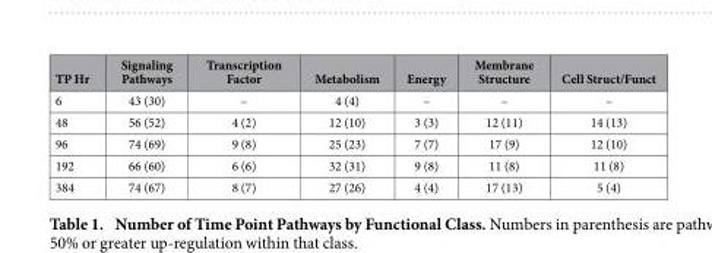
<table><thead><tr><td>TP Hr</td><td>Signaling Pathways</td><td>Transcription Factor</td><td>Metabolism</td><td>Energy</td><td>Membrane Structure</td><td>Cell Struct/Funct</td></tr></thead><tbody><tr><td>6</td><td>43 (30)</td><td>–</td><td>4 (4)</td><td>–</td><td>–</td><td>–</td></tr><tr><td>48</td><td>56 (52)</td><td>4 (2)</td><td>12 (10)</td><td>3 (3)</td><td>12 (11)</td><td>14 (13)</td></tr><tr><td>96</td><td>74 (69)</td><td>9 (8)</td><td>25 (23)</td><td>7 (7)</td><td>17 (9)</td><td>12 (10)</td></tr><tr><td>192</td><td>66 (60)</td><td>6 (6)</td><td>32 (31)</td><td>9 (8)</td><td>11 (8)</td><td>11 (8)</td></tr><tr><td>384</td><td>74 (67)</td><td>8 (7)</td><td>27 (26)</td><td>4 (4)</td><td>17 (13)</td><td>5 (4)</td></tr></tbody></table>